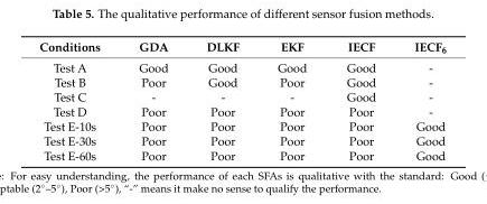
<table><thead><tr><td>Conditions</td><td>GDA</td><td>DLKF</td><td>EKF</td><td>IECF</td><td>IECF<sub>6</sub></td></tr></thead><tbody><tr><td>Test A</td><td>Good</td><td>Good</td><td>Good</td><td>Good</td><td>-</td></tr><tr><td>Test B</td><td>Poor</td><td>Good</td><td>Poor</td><td>Good</td><td>-</td></tr><tr><td>Test C</td><td>-</td><td>-</td><td>-</td><td>Good</td><td>-</td></tr><tr><td>Test D</td><td>Poor</td><td>Poor</td><td>Poor</td><td>Poor</td><td>-</td></tr><tr><td>Test E-10s</td><td>Poor</td><td>Poor</td><td>Poor</td><td>Poor</td><td>Good</td></tr><tr><td>Test E-30s</td><td>Poor</td><td>Poor</td><td>Poor</td><td>Poor</td><td>Good</td></tr><tr><td>Test E-60s</td><td>Poor</td><td>Poor</td><td>Poor</td><td>Poor</td><td>Good</td></tr></tbody></table>